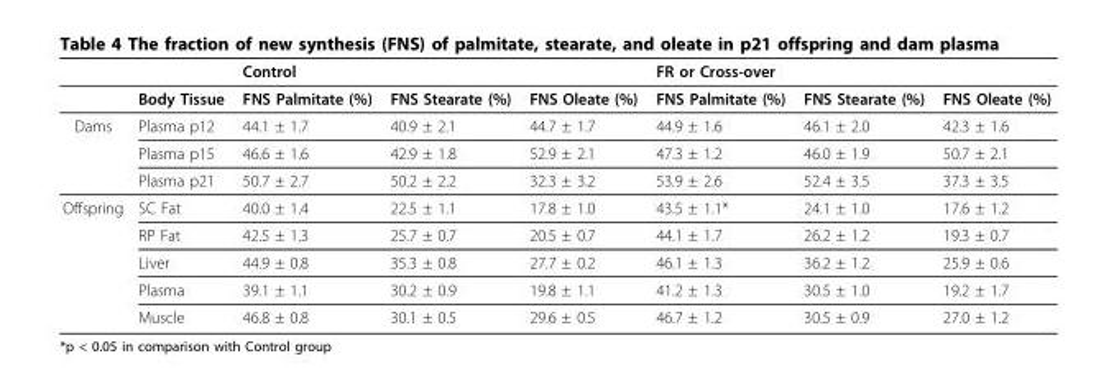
<table><thead><tr><td rowspan="2"></td><td rowspan="2">Body Tissue</td><td colspan="3">Control</td><td colspan="3">FR or Cross-over</td></tr><tr><td>FNS Palmitate (%)</td><td>FNS Stearate (%)</td><td>FNS Oleate (%)</td><td>FNS Palmitate (%)</td><td>FNS Stearate (%)</td><td>FNS Oleate (%)</td></tr></thead><tbody><tr><td rowspan="3">Dams</td><td>Plasma p12</td><td>44.1 ± 1.7</td><td>40.9 ± 2.1</td><td>44.7 ± 1.7</td><td>44.9 ± 1.6</td><td>46.1 ± 2.0</td><td>42.3 ± 1.6</td></tr><tr><td>Plasma p15</td><td>46.6 ± 1.6</td><td>42.9 ± 1.8</td><td>52.9 ± 2.1</td><td>47.3 ± 1.2</td><td>46.0 ± 1.9</td><td>50.7 ± 2.1</td></tr><tr><td>Plasma p21</td><td>50.7 ± 2.7</td><td>50.2 ± 2.2</td><td>32.3 ± 3.2</td><td>53.9 ± 2.6</td><td>52.4 ± 3.5</td><td>37.3 ± 3.5</td></tr><tr><td rowspan="5">Offspring</td><td>SC Fat</td><td>40.0 ± 1.4</td><td>22.5 ± 1.1</td><td>17.8 ± 1.0</td><td>43.5 ± 1.1*</td><td>24.1 ± 1.0</td><td>17.6 ± 1.2</td></tr><tr><td>RP Fat</td><td>42.5 ± 1.3</td><td>25.7 ± 0.7</td><td>20.5 ± 0.7</td><td>44.1 ± 1.7</td><td>26.2 ± 1.2</td><td>19.3 ± 0.7</td></tr><tr><td>Liver</td><td>44.9 ± 0.8</td><td>35.3 ± 0.8</td><td>27.7 ± 0.2</td><td>46.1 ± 1.3</td><td>36.2 ± 1.2</td><td>25.9 ± 0.6</td></tr><tr><td>Plasma</td><td>39.1 ± 1.1</td><td>30.2 ± 0.9</td><td>19.8 ± 1.1</td><td>41.2 ± 1.3</td><td>30.5 ± 1.0</td><td>19.2 ± 1.7</td></tr><tr><td>Muscle</td><td>46.8 ± 0.8</td><td>30.1 ± 0.5</td><td>29.6 ± 0.5</td><td>46.7 ± 1.2</td><td>30.5 ± 0.9</td><td>27.0 ± 1.2</td></tr></tbody></table>